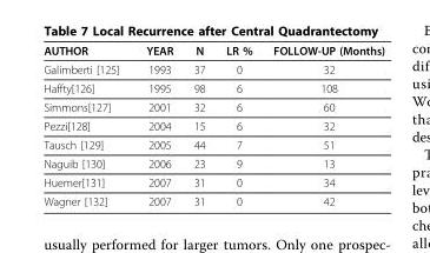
<table><thead><tr><td>AUTHOR</td><td>YEAR</td><td>N</td><td>LR %</td><td>FOLLOW-UP (Months)</td></tr></thead><tbody><tr><td>Galimberti [125]</td><td>1993</td><td>37</td><td>0</td><td>32</td></tr><tr><td>Haffty[126]</td><td>1995</td><td>98</td><td>6</td><td>108</td></tr><tr><td>Simmons[127]</td><td>2001</td><td>32</td><td>6</td><td>60</td></tr><tr><td>Pezzi[128]</td><td>2004</td><td>15</td><td>6</td><td>32</td></tr><tr><td>Tausch [129]</td><td>2005</td><td>44</td><td>7</td><td>51</td></tr><tr><td>Naguib [130]</td><td>2006</td><td>23</td><td>9</td><td>13</td></tr><tr><td>Huemer[131]</td><td>2007</td><td>31</td><td>0</td><td>34</td></tr><tr><td>Wagner [132]</td><td>2007</td><td>31</td><td>0</td><td>42</td></tr></tbody></table>